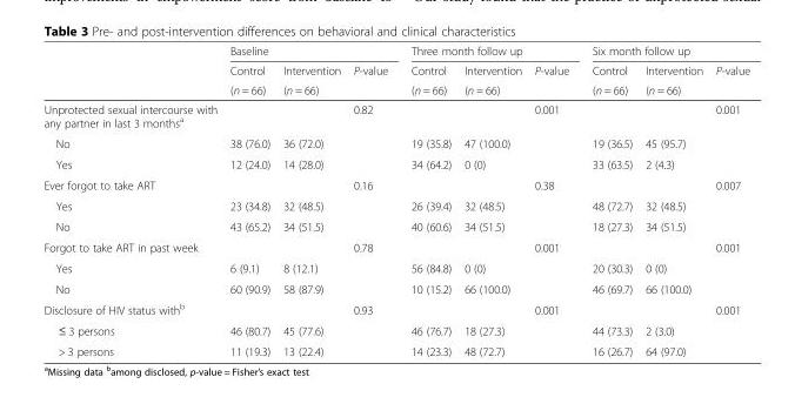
<table><thead><tr><td rowspan="3"></td><td colspan="3">Baseline</td><td colspan="3">Three month follow up</td><td colspan="3">Six month follow up</td></tr><tr><td rowspan="2">Control (n = 66)</td><td rowspan="2">Intervention (n = 66)</td><td rowspan="2">P-value</td><td rowspan="2">Control (n = 66)</td><td rowspan="2">Intervention (n = 66)</td><td rowspan="2">P-value</td><td rowspan="2">Control (n = 66)</td><td rowspan="2">Intervention (n = 66)</td><td rowspan="2">P-value</td></tr><tr></tr></thead><tbody><tr><td>Unprotected sexual intercourse with any partner in last 3 months<sup>a</sup></td><td></td><td></td><td>0.82</td><td></td><td></td><td>0.001</td><td></td><td></td><td>0.001</td></tr><tr><td>No</td><td>38 (76.0)</td><td>36 (72.0)</td><td></td><td>19 (35.8)</td><td>47 (100.0)</td><td></td><td>19 (36.5)</td><td>45 (95.7)</td><td></td></tr><tr><td>Yes</td><td>12 (24.0)</td><td>14 (28.0)</td><td></td><td>34 (64.2)</td><td>0 (0)</td><td></td><td>33 (63.5)</td><td>2 (4.3)</td><td></td></tr><tr><td>Ever forgot to take ART</td><td></td><td></td><td>0.16</td><td></td><td></td><td>0.38</td><td></td><td></td><td>0.007</td></tr><tr><td>Yes</td><td>23 (34.8)</td><td>32 (48.5)</td><td></td><td>26 (39.4)</td><td>32 (48.5)</td><td></td><td>48 (72.7)</td><td>32 (48.5)</td><td></td></tr><tr><td>No</td><td>43 (65.2)</td><td>34 (51.5)</td><td></td><td>40 (60.6)</td><td>34 (51.5)</td><td></td><td>18 (27.3)</td><td>34 (51.5)</td><td></td></tr><tr><td>Forgot to take ART in past week</td><td></td><td></td><td>0.78</td><td></td><td></td><td>0.001</td><td></td><td></td><td>0.001</td></tr><tr><td>Yes</td><td>6 (9.1)</td><td>8 (12.1)</td><td></td><td>56 (84.8)</td><td>0 (0)</td><td></td><td>20 (30.3)</td><td>0 (0)</td><td></td></tr><tr><td>No</td><td>60 (90.9)</td><td>58 (87.9)</td><td></td><td>10 (15.2)</td><td>66 (100.0)</td><td></td><td>46 (69.7)</td><td>66 (100.0)</td><td></td></tr><tr><td>Disclosure of HIV status with<sup>b</sup></td><td></td><td></td><td>0.93</td><td></td><td></td><td>0.001</td><td></td><td></td><td>0.001</td></tr><tr><td>≤ 3 persons</td><td>46 (80.7)</td><td>45 (77.6)</td><td></td><td>46 (76.7)</td><td>18 (27.3)</td><td></td><td>44 (73.3)</td><td>2 (3.0)</td><td></td></tr><tr><td>&gt; 3 persons</td><td>11 (19.3)</td><td>13 (22.4)</td><td></td><td>14 (23.3)</td><td>48 (72.7)</td><td></td><td>16 (26.7)</td><td>64 (97.0)</td><td></td></tr></tbody></table>